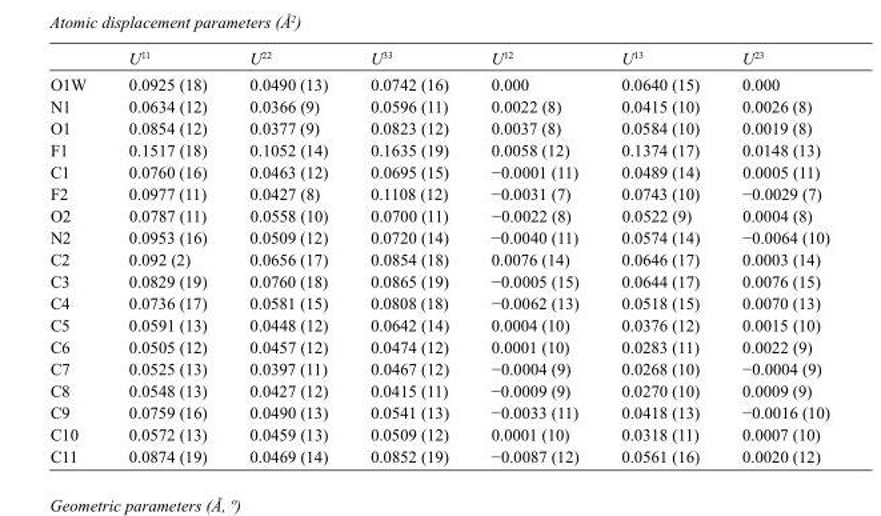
<table><thead><tr><td></td><td>U<sup>11</sup></td><td>U<sup>22</sup></td><td>U<sup>33</sup></td><td>U<sup>12</sup></td><td>U<sup>13</sup></td><td>U<sup>23</sup></td></tr></thead><tbody><tr><td>O1W</td><td>0.0925 (18)</td><td>0.0490 (13)</td><td>0.0742 (16)</td><td>0.000</td><td>0.0640 (15)</td><td>0.000</td></tr><tr><td>N1</td><td>0.0634 (12)</td><td>0.0366 (9)</td><td>0.0596 (11)</td><td>0.0022 (8)</td><td>0.0415 (10)</td><td>0.0026 (8)</td></tr><tr><td>O1</td><td>0.0854 (12)</td><td>0.0377 (9)</td><td>0.0823 (12)</td><td>0.0037 (8)</td><td>0.0584 (10)</td><td>0.0019 (8)</td></tr><tr><td>F1</td><td>0.1517 (18)</td><td>0.1052 (14)</td><td>0.1635 (19)</td><td>0.0058 (12)</td><td>0.1374 (17)</td><td>0.0148 (13)</td></tr><tr><td>C1</td><td>0.0760 (16)</td><td>0.0463 (12)</td><td>0.0695 (15)</td><td>−0.0001 (11)</td><td>0.0489 (14)</td><td>0.0005 (11)</td></tr><tr><td>F2</td><td>0.0977 (11)</td><td>0.0427 (8)</td><td>0.1108 (12)</td><td>−0.0031 (7)</td><td>0.0743 (10)</td><td>−0.0029 (7)</td></tr><tr><td>O2</td><td>0.0787 (11)</td><td>0.0558 (10)</td><td>0.0700 (11)</td><td>−0.0022 (8)</td><td>0.0522 (9)</td><td>0.0004 (8)</td></tr><tr><td>N2</td><td>0.0953 (16)</td><td>0.0509 (12)</td><td>0.0720 (14)</td><td>−0.0040 (11)</td><td>0.0574 (14)</td><td>−0.0064 (10)</td></tr><tr><td>C2</td><td>0.092 (2)</td><td>0.0656 (17)</td><td>0.0854 (18)</td><td>0.0076 (14)</td><td>0.0646 (17)</td><td>0.0003 (14)</td></tr><tr><td>C3</td><td>0.0829 (19)</td><td>0.0760 (18)</td><td>0.0865 (19)</td><td>−0.0005 (15)</td><td>0.0644 (17)</td><td>0.0076 (15)</td></tr><tr><td>C4</td><td>0.0736 (17)</td><td>0.0581 (15)</td><td>0.0808 (18)</td><td>−0.0062 (13)</td><td>0.0518 (15)</td><td>0.0070 (13)</td></tr><tr><td>C5</td><td>0.0591 (13)</td><td>0.0448 (12)</td><td>0.0642 (14)</td><td>0.0004 (10)</td><td>0.0376 (12)</td><td>0.0015 (10)</td></tr><tr><td>C6</td><td>0.0505 (12)</td><td>0.0457 (12)</td><td>0.0474 (12)</td><td>0.0001 (10)</td><td>0.0283 (11)</td><td>0.0022 (9)</td></tr><tr><td>C7</td><td>0.0525 (13)</td><td>0.0397 (11)</td><td>0.0467 (12)</td><td>−0.0004 (9)</td><td>0.0268 (10)</td><td>−0.0004 (9)</td></tr><tr><td>C8</td><td>0.0548 (13)</td><td>0.0427 (12)</td><td>0.0415 (11)</td><td>−0.0009 (9)</td><td>0.0270 (10)</td><td>0.0009 (9)</td></tr><tr><td>C9</td><td>0.0759 (16)</td><td>0.0490 (13)</td><td>0.0541 (13)</td><td>−0.0033 (11)</td><td>0.0418 (13)</td><td>−0.0016 (10)</td></tr><tr><td>C10</td><td>0.0572 (13)</td><td>0.0459 (13)</td><td>0.0509 (12)</td><td>0.0001 (10)</td><td>0.0318 (11)</td><td>0.0007 (10)</td></tr><tr><td>C11</td><td>0.0874 (19)</td><td>0.0469 (14)</td><td>0.0852 (19)</td><td>−0.0087 (12)</td><td>0.0561 (16)</td><td>0.0020 (12)</td></tr></tbody></table>